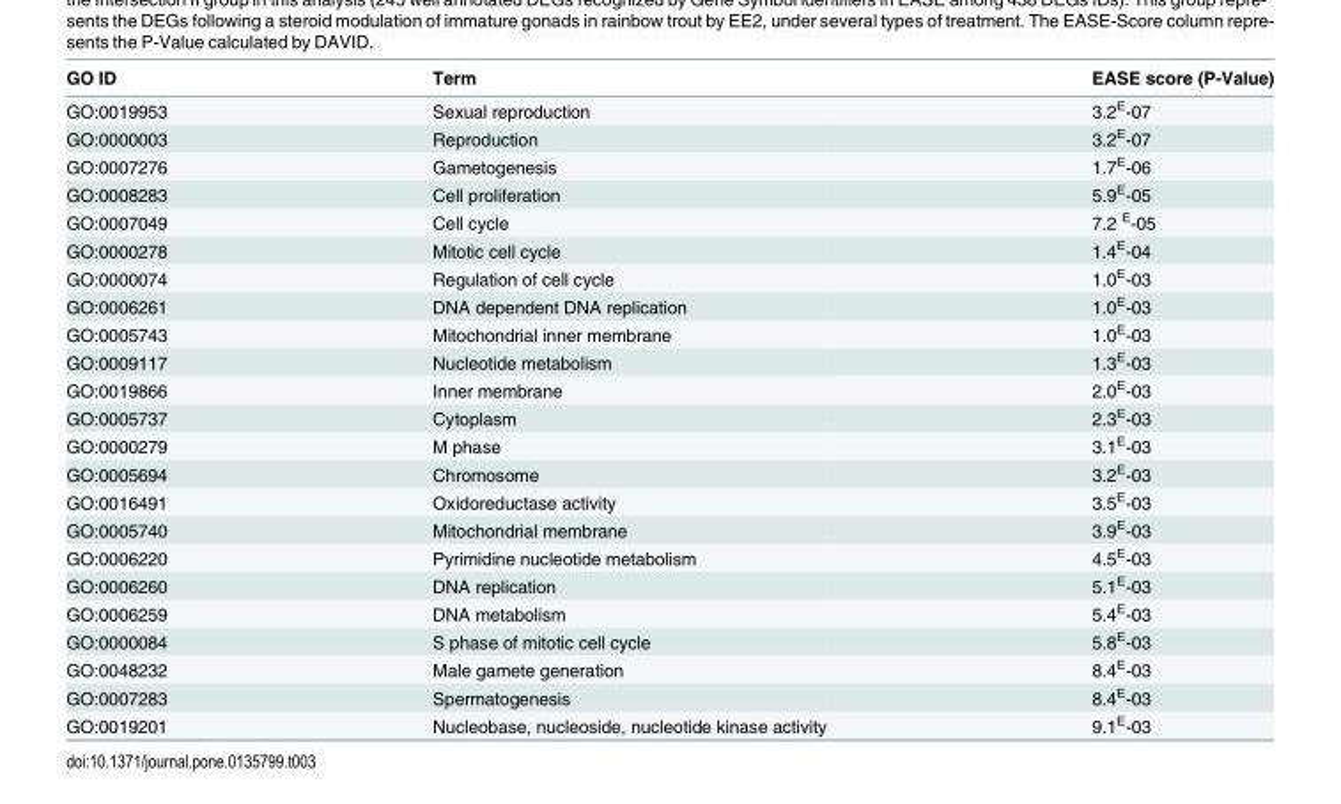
<table><thead><tr><td>GO ID</td><td>Term</td><td>EASE score (P-Value)</td></tr></thead><tbody><tr><td>GO:0019953</td><td>Sexual reproduction</td><td>3.2<sup>E</sup>-07</td></tr><tr><td>GO:0000003</td><td>Reproduction</td><td>3.2<sup>E</sup>-07</td></tr><tr><td>GO:0007276</td><td>Gametogenesis</td><td>1.7<sup>E</sup>-06</td></tr><tr><td>GO:0008283</td><td>Cell proliferation</td><td>5.9<sup>E</sup>-05</td></tr><tr><td>GO:0007049</td><td>Cell cycle</td><td>7.2 <sup>E</sup>-05</td></tr><tr><td>GO:0000278</td><td>Mitotic cell cycle</td><td>1.4<sup>E</sup>-04</td></tr><tr><td>GO:0000074</td><td>Regulation of cell cycle</td><td>1.0<sup>E</sup>-03</td></tr><tr><td>GO:0006261</td><td>DNA dependent DNA replication</td><td>1.0<sup>E</sup>-03</td></tr><tr><td>GO:0005743</td><td>Mitochondrial inner membrane</td><td>1.0<sup>E</sup>-03</td></tr><tr><td>GO:0009117</td><td>Nucleotide metabolism</td><td>1.3<sup>E</sup>-03</td></tr><tr><td>GO:0019866</td><td>Inner membrane</td><td>2.0<sup>E</sup>-03</td></tr><tr><td>GO:0005737</td><td>Cytoplasm</td><td>2.3<sup>E</sup>-03</td></tr><tr><td>GO:0000279</td><td>M phase</td><td>3.1<sup>E</sup>-03</td></tr><tr><td>GO:0005694</td><td>Chromosome</td><td>3.2<sup>E</sup>-03</td></tr><tr><td>GO:0016491</td><td>Oxidoreductase activity</td><td>3.5<sup>E</sup>-03</td></tr><tr><td>GO:0005740</td><td>Mitochondrial membrane</td><td>3.9<sup>E</sup>-03</td></tr><tr><td>GO:0006220</td><td>Pyrimidine nucleotide metabolism</td><td>4.5<sup>E</sup>-03</td></tr><tr><td>GO:0006260</td><td>DNA replication</td><td>5.1<sup>E</sup>-03</td></tr><tr><td>GO:0006259</td><td>DNA metabolism</td><td>5.4<sup>E</sup>-03</td></tr><tr><td>GO:0000084</td><td>S phase of mitotic cell cycle</td><td>5.8<sup>E</sup>-03</td></tr><tr><td>GO:0048232</td><td>Male gamete generation</td><td>8.4<sup>E</sup>-03</td></tr><tr><td>GO:0007283</td><td>Spermatogenesis</td><td>8.4<sup>E</sup>-03</td></tr><tr><td>GO:0019201</td><td>Nucleobase, nucleoside, nucleotide kinase activity</td><td>9.1<sup>E</sup>-03</td></tr></tbody></table>